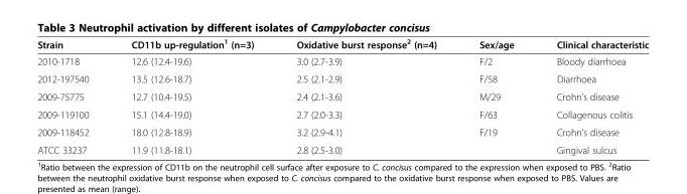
<table><thead><tr><td>Strain</td><td>CD11b up-regulation<sup>1</sup> (n=3)</td><td>Oxidative burst response<sup>2</sup> (n=4)</td><td>Sex/age</td><td>Clinical characteristic</td></tr></thead><tbody><tr><td>2010-1718</td><td>12.6 (12.4-19.6)</td><td>3.0 (2.7-3.9)</td><td>F/2</td><td>Bloody diarrhoea</td></tr><tr><td>2012-197540</td><td>13.5 (12.6-18.7)</td><td>2.5 (2.1-2.9)</td><td>F/58</td><td>Diarrhoea</td></tr><tr><td>2009-75775</td><td>12.7 (10.4-19.5)</td><td>2.4 (2.1-3.6)</td><td>M/29</td><td>Crohn’s disease</td></tr><tr><td>2009-119100</td><td>15.1 (14.4-19.0)</td><td>2.7 (2.0-3.3)</td><td>F/63</td><td>Collagenous colitis</td></tr><tr><td>2009-118452</td><td>18.0 (12.8-18.9)</td><td>3.2 (2.9-4.1)</td><td>F/19</td><td>Crohn’s disease</td></tr><tr><td>ATCC 33237</td><td>11.9 (11.8-18.1)</td><td>2.8 (2.5-3.0)</td><td></td><td>Gingival sulcus</td></tr></tbody></table>